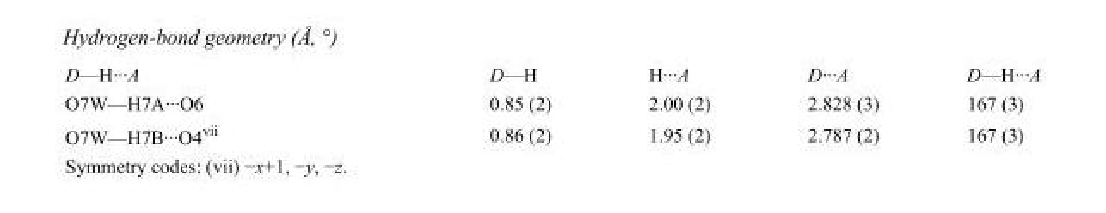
<table><tbody><tr><td>D—H···A</td><td>D—H</td><td>H···A</td><td>D···A</td><td>D—H···A</td></tr><tr><td>O7W—H7A···O6</td><td>0.85 (2)</td><td>2.00 (2)</td><td>2.828 (3)</td><td>167 (3)</td></tr><tr><td>O7W—H7B···O4<sup>vii</sup></td><td>0.86 (2)</td><td>1.95 (2)</td><td>2.787 (2)</td><td>167 (3)</td></tr></tbody></table>